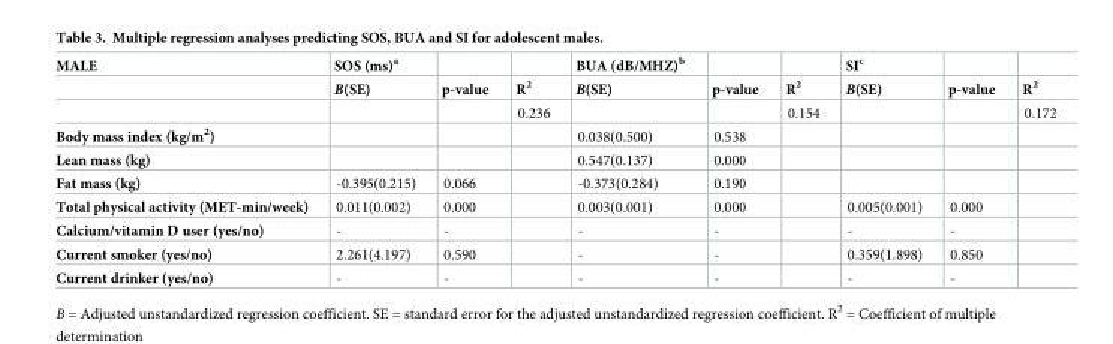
<table><thead><tr><td rowspan="2">MALE</td><td rowspan="2">SOS (ms)<sup>a</sup> B(SE)</td><td rowspan="2">p-value</td><td rowspan="2">R<sup>2</sup></td><td rowspan="2">BUA (dB/MHZ)<sup>b</sup> B(SE)</td><td rowspan="2">p-value</td><td rowspan="2">R<sup>2</sup></td><td rowspan="2">SI<sup>c</sup> B(SE)</td><td rowspan="2">p-value</td><td rowspan="2">R<sup>2</sup></td></tr><tr></tr></thead><tbody><tr><td></td><td></td><td></td><td>0.236</td><td></td><td></td><td>0.154</td><td></td><td></td><td>0.172</td></tr><tr><td>Body mass index (kg/m<sup>2</sup>)</td><td></td><td></td><td></td><td>0.038(0.500)</td><td>0.538</td><td></td><td></td><td></td><td></td></tr><tr><td>Lean mass (kg)</td><td></td><td></td><td></td><td>0.547(0.137)</td><td>0.000</td><td></td><td></td><td></td><td></td></tr><tr><td>Fat mass (kg)</td><td>-0.395(0.215)</td><td>0.066</td><td></td><td>-0.373(0.284)</td><td>0.190</td><td></td><td></td><td></td><td></td></tr><tr><td>Total physical activity (MET-min/week)</td><td>0.011(0.002)</td><td>0.000</td><td></td><td>0.003(0.001)</td><td>0.000</td><td></td><td>0.005(0.001)</td><td>0.000</td><td></td></tr><tr><td>Calcium/vitamin D user (yes/no)</td><td>-</td><td>-</td><td></td><td>-</td><td>-</td><td></td><td>-</td><td>-</td><td></td></tr><tr><td>Current smoker (yes/no)</td><td>2.261(4.197)</td><td>0.590</td><td></td><td>-</td><td>-</td><td></td><td>0.359(1.898)</td><td>0.850</td><td></td></tr><tr><td>Current drinker (yes/no)</td><td>-</td><td>-</td><td></td><td>-</td><td>-</td><td></td><td>-</td><td>-</td><td></td></tr></tbody></table>